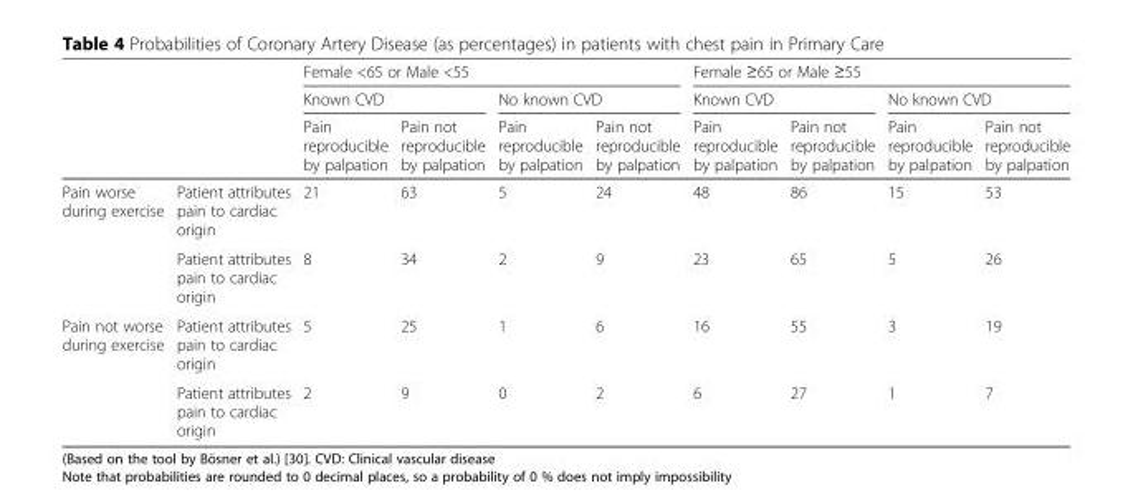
<table><thead><tr><td rowspan="3"></td><td rowspan="3"></td><td colspan="4">Female &lt;65 or Male &lt;55</td><td colspan="4">Female ≥65 or Male ≥55</td></tr><tr><td colspan="2">Known CVD</td><td colspan="2">No known CVD</td><td colspan="2">Known CVD</td><td colspan="2">No known CVD</td></tr><tr><td>Pain reproducible by palpation</td><td>Pain not reproducible by palpation</td><td>Pain reproducible by palpation</td><td>Pain not reproducible by palpation</td><td>Pain reproducible by palpation</td><td>Pain not reproducible by palpation</td><td>Pain reproducible by palpation</td><td>Pain not reproducible by palpation</td></tr></thead><tbody><tr><td rowspan="2">Pain worse during exercise</td><td>Patient attributes pain to cardiac origin</td><td>21</td><td>63</td><td>5</td><td>24</td><td>48</td><td>86</td><td>15</td><td>53</td></tr><tr><td>Patient attributes pain to cardiac origin</td><td>8</td><td>34</td><td>2</td><td>9</td><td>23</td><td>65</td><td>5</td><td>26</td></tr><tr><td rowspan="2">Pain not worse during exercise</td><td>Patient attributes pain to cardiac origin</td><td>5</td><td>25</td><td>1</td><td>6</td><td>16</td><td>55</td><td>3</td><td>19</td></tr><tr><td>Patient attributes pain to cardiac origin</td><td>2</td><td>9</td><td>0</td><td>2</td><td>6</td><td>27</td><td>1</td><td>7</td></tr></tbody></table>